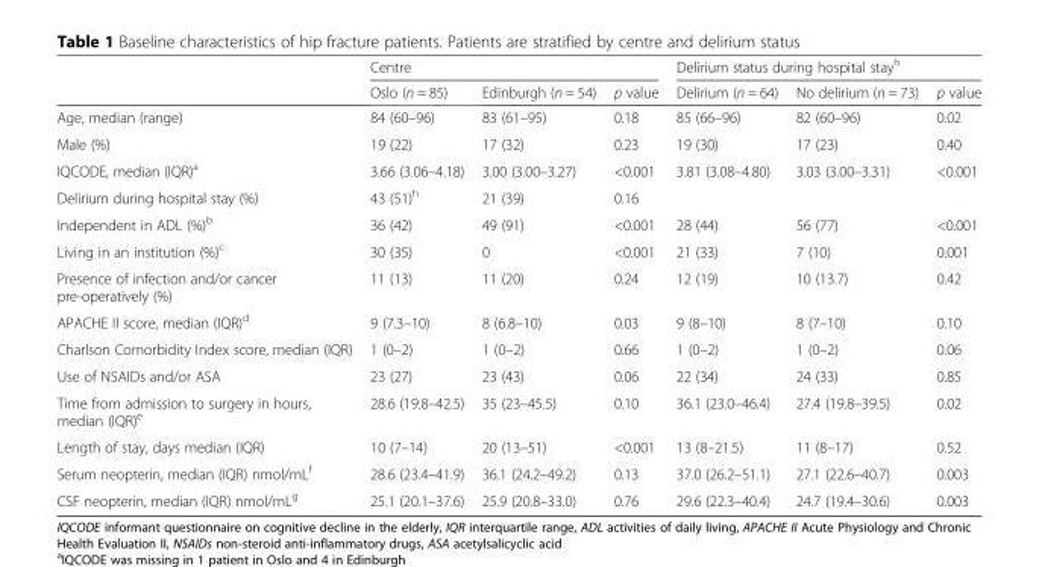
<table><thead><tr><td rowspan="2"></td><td colspan="3">Centre</td><td colspan="3">Delirium status during hospital stay<sup>h</sup></td></tr><tr><td>Oslo (n = 85)</td><td>Edinburgh (n = 54)</td><td>p value</td><td>Delirium (n = 64)</td><td>No delirium (n = 73)</td><td>p value</td></tr></thead><tbody><tr><td>Age, median (range)</td><td>84 (60–96)</td><td>83 (61–95)</td><td>0.18</td><td>85 (66–96)</td><td>82 (60–96)</td><td>0.02</td></tr><tr><td>Male (%)</td><td>19 (22)</td><td>17 (32)</td><td>0.23</td><td>19 (30)</td><td>17 (23)</td><td>0.40</td></tr><tr><td>IQCODE, median (IQR)<sup>a</sup></td><td>3.66 (3.06–4.18)</td><td>3.00 (3.00–3.27)</td><td>&lt;0.001</td><td>3.81 (3.08–4.80)</td><td>3.03 (3.00–3.31)</td><td>&lt;0.001</td></tr><tr><td>Delirium during hospital stay (%)</td><td>43 (51)<sup>h</sup></td><td>21 (39)</td><td>0.16</td><td></td><td></td><td></td></tr><tr><td>Independent in ADL (%)<sup>b</sup></td><td>36 (42)</td><td>49 (91)</td><td>&lt;0.001</td><td>28 (44)</td><td>56 (77)</td><td>&lt;0.001</td></tr><tr><td>Living in an institution (%)<sup>c</sup></td><td>30 (35)</td><td>0</td><td>&lt;0.001</td><td>21 (33)</td><td>7 (10)</td><td>0.001</td></tr><tr><td>Presence of infection and/or cancer pre-operatively (%)</td><td>11 (13)</td><td>11 (20)</td><td>0.24</td><td>12 (19)</td><td>10 (13.7)</td><td>0.42</td></tr><tr><td>APACHE II score, median (IQR)<sup>d</sup></td><td>9 (7.3–10)</td><td>8 (6.8–10)</td><td>0.03</td><td>9 (8–10)</td><td>8 (7–10)</td><td>0.10</td></tr><tr><td>Charlson Comorbidity Index score, median (IQR)</td><td>1 (0–2)</td><td>1 (0–2)</td><td>0.66</td><td>1 (0–2)</td><td>1 (0–2)</td><td>0.06</td></tr><tr><td>Use of NSAIDs and/or ASA</td><td>23 (27)</td><td>23 (43)</td><td>0.06</td><td>22 (34)</td><td>24 (33)</td><td>0.85</td></tr><tr><td>Time from admission to surgery in hours, median (IQR)<sup>e</sup></td><td>28.6 (19.8–42.5)</td><td>35 (23–45.5)</td><td>0.10</td><td>36.1 (23.0–46.4)</td><td>27.4 (19.8–39.5)</td><td>0.02</td></tr><tr><td>Length of stay, days median (IQR)</td><td>10 (7–14)</td><td>20 (13–51)</td><td>&lt;0.001</td><td>13 (8–21.5)</td><td>11 (8–17)</td><td>0.52</td></tr><tr><td>Serum neopterin, median (IQR) nmol/mL<sup>f</sup></td><td>28.6 (23.4–41.9)</td><td>36.1 (24.2–49.2)</td><td>0.13</td><td>37.0 (26.2–51.1)</td><td>27.1 (22.6–40.7)</td><td>0.003</td></tr><tr><td>CSF neopterin, median (IQR) nmol/mL<sup>g</sup></td><td>25.1 (20.1–37.6)</td><td>25.9 (20.8–33.0)</td><td>0.76</td><td>29.6 (22.3–40.4)</td><td>24.7 (19.4–30.6)</td><td>0.003</td></tr></tbody></table>